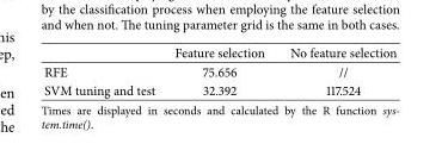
<table><thead><tr><td></td><td>Feature selection</td><td>No feature selection</td></tr></thead><tbody><tr><td>RFE</td><td>75.656</td><td>//</td></tr><tr><td>SVM tuning and test</td><td>32.392</td><td>117.524</td></tr></tbody></table>